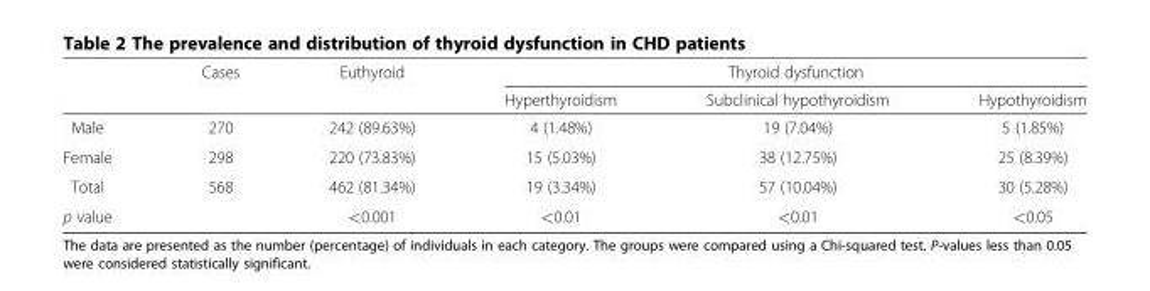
<table><thead><tr><td rowspan="2"></td><td rowspan="2">Cases</td><td rowspan="2">Euthyroid</td><td colspan="3">Thyroid dysfunction</td></tr><tr><td>Hyperthyroidism</td><td>Subclinical hypothyroidism</td><td>Hypothyroidism</td></tr></thead><tbody><tr><td>Male</td><td>270</td><td>242 (89.63%)</td><td>4 (1.48%)</td><td>19 (7.04%)</td><td>5 (1.85%)</td></tr><tr><td>Female</td><td>298</td><td>220 (73.83%)</td><td>15 (5.03%)</td><td>38 (12.75%)</td><td>25 (8.39%)</td></tr><tr><td>Total</td><td>568</td><td>462 (81.34%)</td><td>19 (3.34%)</td><td>57 (10.04%)</td><td>30 (5.28%)</td></tr><tr><td>p value</td><td></td><td>&lt;0.001</td><td>&lt;0.01</td><td>&lt;0.01</td><td>&lt;0.05</td></tr></tbody></table>